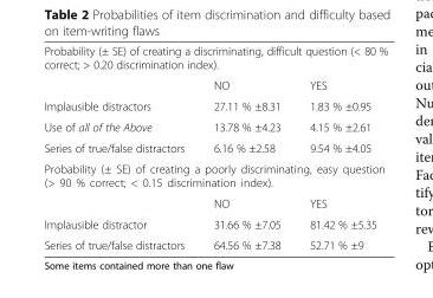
<table><tbody><tr><td colspan="3">Probability (± SE) of creating a discriminating, difficult question (&lt; 80 % correct; &gt; 0.20 discrimination index).</td></tr><tr><td></td><td>NO</td><td>YES</td></tr><tr><td>Implausible distractors</td><td>27.11 % ±8.31</td><td>1.83 % ±0.95</td></tr><tr><td>Use of all of the Above</td><td>13.78 % ±4.23</td><td>4.15 % ±2.61</td></tr><tr><td>Series of true/false distractors</td><td>6.16 % ±2.58</td><td>9.54 % ±4.05</td></tr><tr><td colspan="3">Probability (± SE) of creating a poorly discriminating, easy question (&gt; 90 % correct; &lt; 0.15 discrimination index).</td></tr><tr><td></td><td>NO</td><td>YES</td></tr><tr><td>Implausible distractor</td><td>31.66 % ±7.05</td><td>81.42 % ±5.35</td></tr><tr><td>Series of true/false distractors</td><td>64.56 % ±7.38</td><td>52.71 % ±9</td></tr></tbody></table>